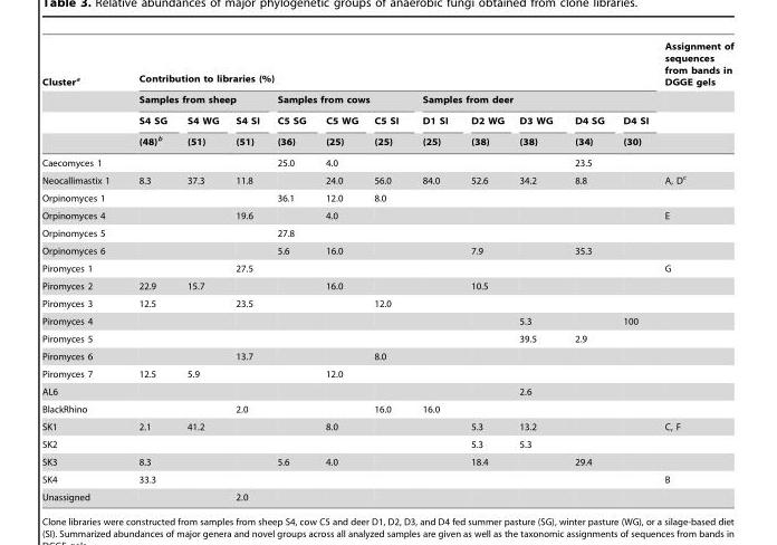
<table><thead><tr><td rowspan="4">Cluster<sup>a</sup></td><td colspan="11">Contribution to libraries (%)</td><td rowspan="4">Assignment of sequences from bands in DGGE gels</td></tr><tr><td colspan="3">Samples from sheep</td><td colspan="3">Samples from cows</td><td colspan="5">Samples from deer</td></tr><tr><td rowspan="2">S4 SG (48)<sup>b</sup></td><td rowspan="2">S4 WG (51)</td><td rowspan="2">S4 SI (51)</td><td rowspan="2">C5 SG (36)</td><td rowspan="2">C5 WG (25)</td><td rowspan="2">C5 SI (25)</td><td rowspan="2">D1 SI (25)</td><td rowspan="2">D2 WG (38)</td><td rowspan="2">D3 WG (38)</td><td rowspan="2">D4 SG (34)</td><td rowspan="2">D4 SI (30)</td></tr><tr></tr></thead><tbody><tr><td>Caecomyces 1</td><td></td><td></td><td></td><td>25.0</td><td>4.0</td><td></td><td></td><td></td><td></td><td>23.5</td><td></td><td></td></tr><tr><td>Neocallimastix 1</td><td>8.3</td><td>37.3</td><td>11.8</td><td></td><td>24.0</td><td>56.0</td><td>84.0</td><td>52.6</td><td>34.2</td><td>8.8</td><td></td><td>A, D<sup>c</sup></td></tr><tr><td>Orpinomyces 1</td><td></td><td></td><td></td><td>36.1</td><td>12.0</td><td>8.0</td><td></td><td></td><td></td><td></td><td></td><td></td></tr><tr><td>Orpinomyces 4</td><td></td><td></td><td>19.6</td><td></td><td>4.0</td><td></td><td></td><td></td><td></td><td></td><td></td><td>E</td></tr><tr><td>Orpinomyces 5</td><td></td><td></td><td></td><td>27.8</td><td></td><td></td><td></td><td></td><td></td><td></td><td></td><td></td></tr><tr><td>Orpinomyces 6</td><td></td><td></td><td></td><td>5.6</td><td>16.0</td><td></td><td></td><td>7.9</td><td></td><td>35.3</td><td></td><td></td></tr><tr><td>Piromyces 1</td><td></td><td></td><td>27.5</td><td></td><td></td><td></td><td></td><td></td><td></td><td></td><td></td><td>G</td></tr><tr><td>Piromyces 2</td><td>22.9</td><td>15.7</td><td></td><td></td><td>16.0</td><td></td><td></td><td>10.5</td><td></td><td></td><td></td><td></td></tr><tr><td>Piromyces 3</td><td>12.5</td><td></td><td>23.5</td><td></td><td></td><td>12.0</td><td></td><td></td><td></td><td></td><td></td><td></td></tr><tr><td>Piromyces 4</td><td></td><td></td><td></td><td></td><td></td><td></td><td></td><td></td><td>5.3</td><td></td><td>100</td><td></td></tr><tr><td>Piromyces 5</td><td></td><td></td><td></td><td></td><td></td><td></td><td></td><td></td><td>39.5</td><td>2.9</td><td></td><td></td></tr><tr><td>Piromyces 6</td><td></td><td></td><td>13.7</td><td></td><td></td><td>8.0</td><td></td><td></td><td></td><td></td><td></td><td></td></tr><tr><td>Piromyces 7</td><td>12.5</td><td>5.9</td><td></td><td></td><td>12.0</td><td></td><td></td><td></td><td></td><td></td><td></td><td></td></tr><tr><td>AL6</td><td></td><td></td><td></td><td></td><td></td><td></td><td></td><td></td><td>2.6</td><td></td><td></td><td></td></tr><tr><td>BlackRhino</td><td></td><td></td><td>2.0</td><td></td><td></td><td>16.0</td><td>16.0</td><td></td><td></td><td></td><td></td><td></td></tr><tr><td>SK1</td><td>2.1</td><td>41.2</td><td></td><td></td><td>8.0</td><td></td><td></td><td>5.3</td><td>13.2</td><td></td><td></td><td>C, F</td></tr><tr><td>SK2</td><td></td><td></td><td></td><td></td><td></td><td></td><td></td><td>5.3</td><td>5.3</td><td></td><td></td><td></td></tr><tr><td>SK3</td><td>8.3</td><td></td><td></td><td>5.6</td><td>4.0</td><td></td><td></td><td>18.4</td><td></td><td>29.4</td><td></td><td></td></tr><tr><td>SK4</td><td>33.3</td><td></td><td></td><td></td><td></td><td></td><td></td><td></td><td></td><td></td><td></td><td>B</td></tr><tr><td>Unassigned</td><td></td><td></td><td>2.0</td><td></td><td></td><td></td><td></td><td></td><td></td><td></td><td></td><td></td></tr></tbody></table>